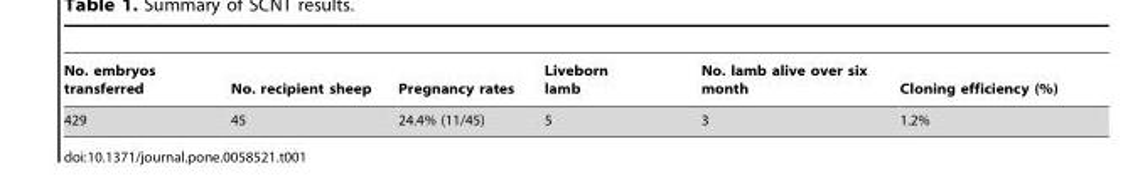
<table><thead><tr><td>No. embryos transferred</td><td>No. recipient sheep</td><td>Pregnancy rates</td><td>Liveborn lamb</td><td>No. lamb alive over six month</td><td>Cloning efficiency (%)</td></tr></thead><tbody><tr><td>429</td><td>45</td><td>24.4% (11/45)</td><td>5</td><td>3</td><td>1.2%</td></tr></tbody></table>